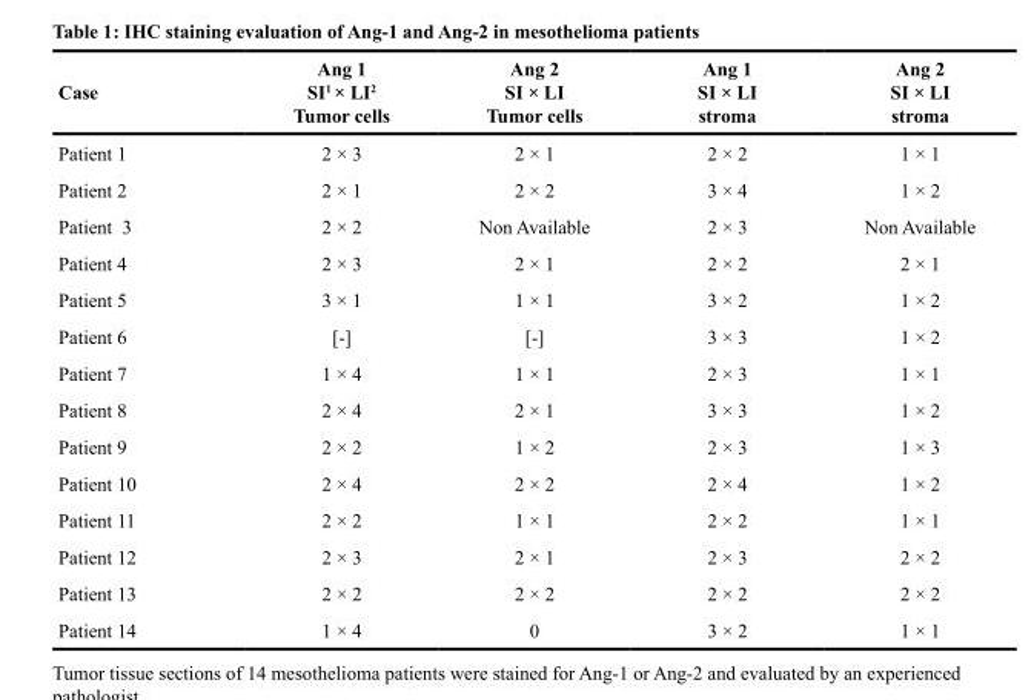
<table><thead><tr><td>Case</td><td>Ang 1 SI<sup>1</sup> × LI<sup>2</sup> Tumor cells</td><td>Ang 2 SI × LI Tumor cells</td><td>Ang 1 SI × LI stroma</td><td>Ang 2 SI × LI stroma</td></tr></thead><tbody><tr><td>Patient 1</td><td>2 × 3</td><td>2 × 1</td><td>2 × 2</td><td>1 × 1</td></tr><tr><td>Patient 2</td><td>2 × 1</td><td>2 × 2</td><td>3 × 4</td><td>1 × 2</td></tr><tr><td>Patient 3</td><td>2 × 2</td><td>Non Available</td><td>2 × 3</td><td>Non Available</td></tr><tr><td>Patient 4</td><td>2 × 3</td><td>2 × 1</td><td>2 × 2</td><td>2 × 1</td></tr><tr><td>Patient 5</td><td>3 × 1</td><td>1 × 1</td><td>3 × 2</td><td>1 × 2</td></tr><tr><td>Patient 6</td><td>[-]</td><td>[-]</td><td>3 × 3</td><td>1 × 2</td></tr><tr><td>Patient 7</td><td>1 × 4</td><td>1 × 1</td><td>2 × 3</td><td>1 × 1</td></tr><tr><td>Patient 8</td><td>2 × 4</td><td>2 × 1</td><td>3 × 3</td><td>1 × 2</td></tr><tr><td>Patient 9</td><td>2 × 2</td><td>1 × 2</td><td>2 × 3</td><td>1 × 3</td></tr><tr><td>Patient 10</td><td>2 × 4</td><td>2 × 2</td><td>2 × 4</td><td>1 × 2</td></tr><tr><td>Patient 11</td><td>2 × 2</td><td>1 × 1</td><td>2 × 2</td><td>1 × 1</td></tr><tr><td>Patient 12</td><td>2 × 3</td><td>2 × 1</td><td>2 × 3</td><td>2 × 2</td></tr><tr><td>Patient 13</td><td>2 × 2</td><td>2 × 2</td><td>2 × 2</td><td>2 × 2</td></tr><tr><td>Patient 14</td><td>1 × 4</td><td>0</td><td>3 × 2</td><td>1 × 1</td></tr></tbody></table>